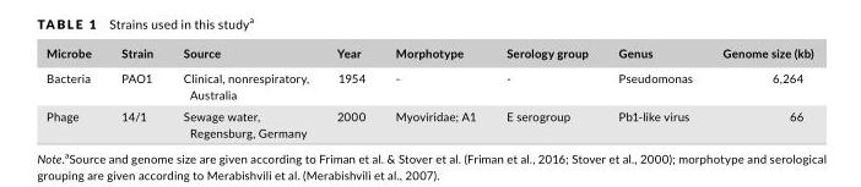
<table><thead><tr><td>Microbe</td><td>Strain</td><td>Source</td><td>Year</td><td>Morphotype</td><td>Serology group</td><td>Genus</td><td>Genome size (kb)</td></tr></thead><tbody><tr><td>Bacteria</td><td>PAO1</td><td>Clinical, nonrespiratory, Australia</td><td>1954</td><td>-</td><td>-</td><td>Pseudomonas</td><td>6,264</td></tr><tr><td>Phage</td><td>14/1</td><td>Sewage water, Regensburg, Germany</td><td>2000</td><td>Myoviridae; A1</td><td>E serogroup</td><td>Pb1- like virus</td><td>66</td></tr></tbody></table>